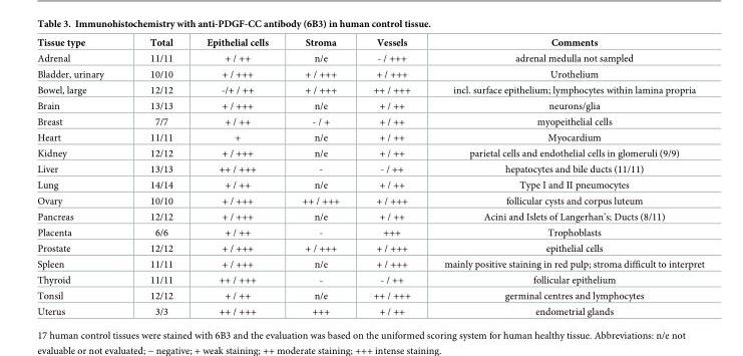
<table><thead><tr><td>Tissue type</td><td>Total</td><td>Epithelial cells</td><td>Stroma</td><td>Vessels</td><td>Comments</td></tr></thead><tbody><tr><td>Adrenal</td><td>11/11</td><td>+ / ++</td><td>n/e</td><td>- / +++</td><td>adrenal medulla not sampled</td></tr><tr><td>Bladder, urinary</td><td>10/10</td><td>+ / +++</td><td>+ / +++</td><td>+ / +++</td><td>Urothelium</td></tr><tr><td>Bowel, large</td><td>12/12</td><td>-/+ / ++</td><td>+ / +++</td><td>++ / +++</td><td>incl. surface epithelium; lymphocytes within lamina propria</td></tr><tr><td>Brain</td><td>13/13</td><td>+ / +++</td><td>n/e</td><td>+ / ++</td><td>neurons/glia</td></tr><tr><td>Breast</td><td>7/7</td><td>+ / ++</td><td>- / +</td><td>+ / ++</td><td>myopeithelial cells</td></tr><tr><td>Heart</td><td>11/11</td><td>+</td><td>n/e</td><td>+ / ++</td><td>Myocardium</td></tr><tr><td>Kidney</td><td>12/12</td><td>+ / +++</td><td>n/e</td><td>+ / ++</td><td>parietal cells and endothelial cells in glomeruli (9/9)</td></tr><tr><td>Liver</td><td>13/13</td><td>++ / +++</td><td>-</td><td>- / ++</td><td>hepatocytes and bile ducts (11/11)</td></tr><tr><td>Lung</td><td>14/14</td><td>+ / ++</td><td>n/e</td><td>+ / ++</td><td>Type I and II pneumocytes</td></tr><tr><td>Ovary</td><td>10/10</td><td>+ / +++</td><td>++ / +++</td><td>+ / +++</td><td>follicular cysts and corpus luteum</td></tr><tr><td>Pancreas</td><td>12/12</td><td>+ / +++</td><td>n/e</td><td>+ / ++</td><td>Acini and Islets of Langerhan’s; Ducts (8/11)</td></tr><tr><td>Placenta</td><td>6/6</td><td>+ / ++</td><td>-</td><td>+++</td><td>Trophoblasts</td></tr><tr><td>Prostate</td><td>12/12</td><td>+ / +++</td><td>+ / +++</td><td>+ / +++</td><td>epithelial cells</td></tr><tr><td>Spleen</td><td>11/11</td><td>+ / +++</td><td>n/e</td><td>+ / +++</td><td>mainly positive staining in red pulp; stroma difficult to interpret</td></tr><tr><td>Thyroid</td><td>11/11</td><td>++ / +++</td><td>-</td><td>- / ++</td><td>follicular epithelium</td></tr><tr><td>Tonsil</td><td>12/12</td><td>+ / ++</td><td>n/e</td><td>++ / +++</td><td>germinal centres and lymphocytes</td></tr><tr><td>Uterus</td><td>3/3</td><td>++ / +++</td><td>+++</td><td>+ / ++</td><td>endometrial glands</td></tr></tbody></table>